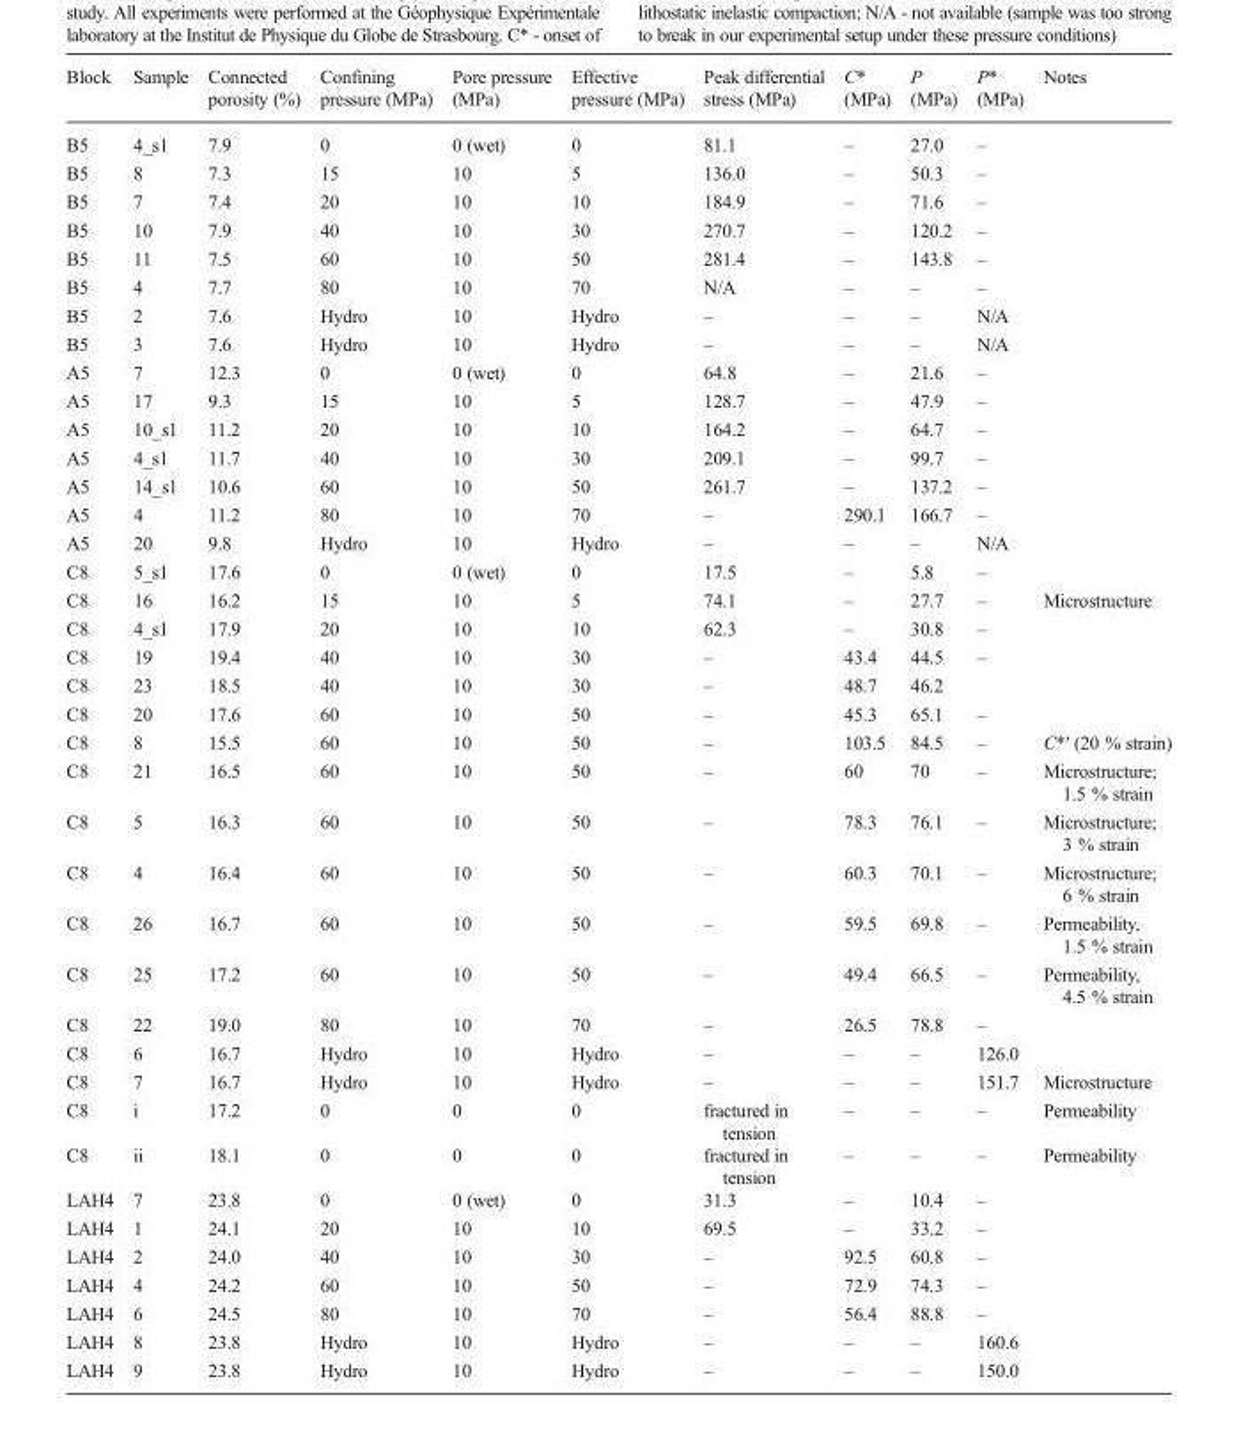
<table><thead><tr><td>Block</td><td>Sample</td><td>Connected porosity (%)</td><td>Confining pressure (MPa)</td><td>Pore pressure (MPa)</td><td>Effective pressure (MPa)</td><td>Peak differential stress (MPa)</td><td>C* (MPa)</td><td>P (MPa)</td><td>P* (MPa)</td><td>Notes</td></tr></thead><tbody><tr><td>B5</td><td>4_s1</td><td>7.9</td><td>0</td><td>0 (wet)</td><td>0</td><td>81.1</td><td>–</td><td>27.0</td><td>–</td><td></td></tr><tr><td>B5</td><td>8</td><td>7.3</td><td>15</td><td>10</td><td>5</td><td>136.0</td><td>–</td><td>50.3</td><td>–</td><td></td></tr><tr><td>B5</td><td>7</td><td>7.4</td><td>20</td><td>10</td><td>10</td><td>184.9</td><td>–</td><td>71.6</td><td>–</td><td></td></tr><tr><td>B5</td><td>10</td><td>7.9</td><td>40</td><td>10</td><td>30</td><td>270.7</td><td>–</td><td>120.2</td><td>–</td><td></td></tr><tr><td>B5</td><td>11</td><td>7.5</td><td>60</td><td>10</td><td>50</td><td>281.4</td><td>–</td><td>143.8</td><td>–</td><td></td></tr><tr><td>B5</td><td>4</td><td>7.7</td><td>80</td><td>10</td><td>70</td><td>N/A</td><td>–</td><td>–</td><td>–</td><td></td></tr><tr><td>B5</td><td>2</td><td>7.6</td><td>Hydro</td><td>10</td><td>Hydro</td><td>–</td><td>–</td><td>–</td><td>N/A</td><td></td></tr><tr><td>B5</td><td>3</td><td>7.6</td><td>Hydro</td><td>10</td><td>Hydro</td><td>–</td><td>–</td><td>–</td><td>N/A</td><td></td></tr><tr><td>A5</td><td>7</td><td>12.3</td><td>0</td><td>0 (wet)</td><td>0</td><td>64.8</td><td>–</td><td>21.6</td><td>–</td><td></td></tr><tr><td>A5</td><td>17</td><td>9.3</td><td>15</td><td>10</td><td>5</td><td>128.7</td><td>–</td><td>47.9</td><td>–</td><td></td></tr><tr><td>A5</td><td>10_s1</td><td>11.2</td><td>20</td><td>10</td><td>10</td><td>164.2</td><td>–</td><td>64.7</td><td>–</td><td></td></tr><tr><td>A5</td><td>4_s1</td><td>11.7</td><td>40</td><td>10</td><td>30</td><td>209.1</td><td>–</td><td>99.7</td><td>–</td><td></td></tr><tr><td>A5</td><td>14_s1</td><td>10.6</td><td>60</td><td>10</td><td>50</td><td>261.7</td><td>–</td><td>137.2</td><td>–</td><td></td></tr><tr><td>A5</td><td>4</td><td>11.2</td><td>80</td><td>10</td><td>70</td><td>–</td><td>290.1</td><td>166.7</td><td>–</td><td></td></tr><tr><td>A5</td><td>20</td><td>9.8</td><td>Hydro</td><td>10</td><td>Hydro</td><td>–</td><td>–</td><td>–</td><td>N/A</td><td></td></tr><tr><td>C8</td><td>5_s1</td><td>17.6</td><td>0</td><td>0 (wet)</td><td>0</td><td>17.5</td><td>–</td><td>5.8</td><td>–</td><td></td></tr><tr><td>C8</td><td>16</td><td>16.2</td><td>15</td><td>10</td><td>5</td><td>74.1</td><td>–</td><td>27.7</td><td>–</td><td>Microstructure</td></tr><tr><td>C8</td><td>4_s1</td><td>17.9</td><td>20</td><td>10</td><td>10</td><td>62.3</td><td>–</td><td>30.8</td><td>–</td><td></td></tr><tr><td>C8</td><td>19</td><td>19.4</td><td>40</td><td>10</td><td>30</td><td>–</td><td>43.4</td><td>44.5</td><td>–</td><td></td></tr><tr><td>C8</td><td>23</td><td>18.5</td><td>40</td><td>10</td><td>30</td><td>–</td><td>48.7</td><td>46.2</td><td></td><td></td></tr><tr><td>C8</td><td>20</td><td>17.6</td><td>60</td><td>10</td><td>50</td><td>–</td><td>45.3</td><td>65.1</td><td>–</td><td></td></tr><tr><td>C8</td><td>8</td><td>15.5</td><td>60</td><td>10</td><td>50</td><td>–</td><td>103.5</td><td>84.5</td><td>–</td><td>C*′ (20 % strain)</td></tr><tr><td>C8</td><td>21</td><td>16.5</td><td>60</td><td>10</td><td>50</td><td>–</td><td>60</td><td>70</td><td>–</td><td>Microstructure; 1.5 % strain</td></tr><tr><td>C8</td><td>5</td><td>16.3</td><td>60</td><td>10</td><td>50</td><td>–</td><td>78.3</td><td>76.1</td><td>–</td><td>Microstructure; 3 % strain</td></tr><tr><td>C8</td><td>4</td><td>16.4</td><td>60</td><td>10</td><td>50</td><td>–</td><td>60.3</td><td>70.1</td><td>–</td><td>Microstructure; 6 % strain</td></tr><tr><td>C8</td><td>26</td><td>16.7</td><td>60</td><td>10</td><td>50</td><td>–</td><td>59.5</td><td>69.8</td><td>–</td><td>Permeability, 1.5 % strain</td></tr><tr><td>C8</td><td>25</td><td>17.2</td><td>60</td><td>10</td><td>50</td><td>–</td><td>49.4</td><td>66.5</td><td>–</td><td>Permeability, 4.5 % strain</td></tr><tr><td>C8</td><td>22</td><td>19.0</td><td>80</td><td>10</td><td>70</td><td>–</td><td>26.5</td><td>78.8</td><td>–</td><td></td></tr><tr><td>C8</td><td>6</td><td>16.7</td><td>Hydro</td><td>10</td><td>Hydro</td><td>–</td><td>–</td><td>–</td><td>126.0</td><td></td></tr><tr><td>C8</td><td>7</td><td>16.7</td><td>Hydro</td><td>10</td><td>Hydro</td><td>–</td><td>–</td><td>–</td><td>151.7</td><td>Microstructure</td></tr><tr><td>C8</td><td>i</td><td>17.2</td><td>0</td><td>0</td><td>0</td><td>fractured in tension</td><td>–</td><td>–</td><td>–</td><td>Permeability</td></tr><tr><td>C8</td><td>ii</td><td>18.1</td><td>0</td><td>0</td><td>0</td><td>fractured in tension</td><td>–</td><td>–</td><td>–</td><td>Permeability</td></tr><tr><td>LAH4</td><td>7</td><td>23.8</td><td>0</td><td>0 (wet)</td><td>0</td><td>31.3</td><td>–</td><td>10.4</td><td>–</td><td></td></tr><tr><td>LAH4</td><td>1</td><td>24.1</td><td>20</td><td>10</td><td>10</td><td>69.5</td><td>–</td><td>33.2</td><td>–</td><td></td></tr><tr><td>LAH4</td><td>2</td><td>24.0</td><td>40</td><td>10</td><td>30</td><td>–</td><td>92.5</td><td>60.8</td><td>–</td><td></td></tr><tr><td>LAH4</td><td>4</td><td>24.2</td><td>60</td><td>10</td><td>50</td><td>–</td><td>72.9</td><td>74.3</td><td>–</td><td></td></tr><tr><td>LAH4</td><td>6</td><td>24.5</td><td>80</td><td>10</td><td>70</td><td>–</td><td>56.4</td><td>88.8</td><td>–</td><td></td></tr><tr><td>LAH4</td><td>8</td><td>23.8</td><td>Hydro</td><td>10</td><td>Hydro</td><td>–</td><td>–</td><td>–</td><td>160.6</td><td></td></tr><tr><td>LAH4</td><td>9</td><td>23.8</td><td>Hydro</td><td>10</td><td>Hydro</td><td>–</td><td>–</td><td>–</td><td>150.0</td><td></td></tr></tbody></table>